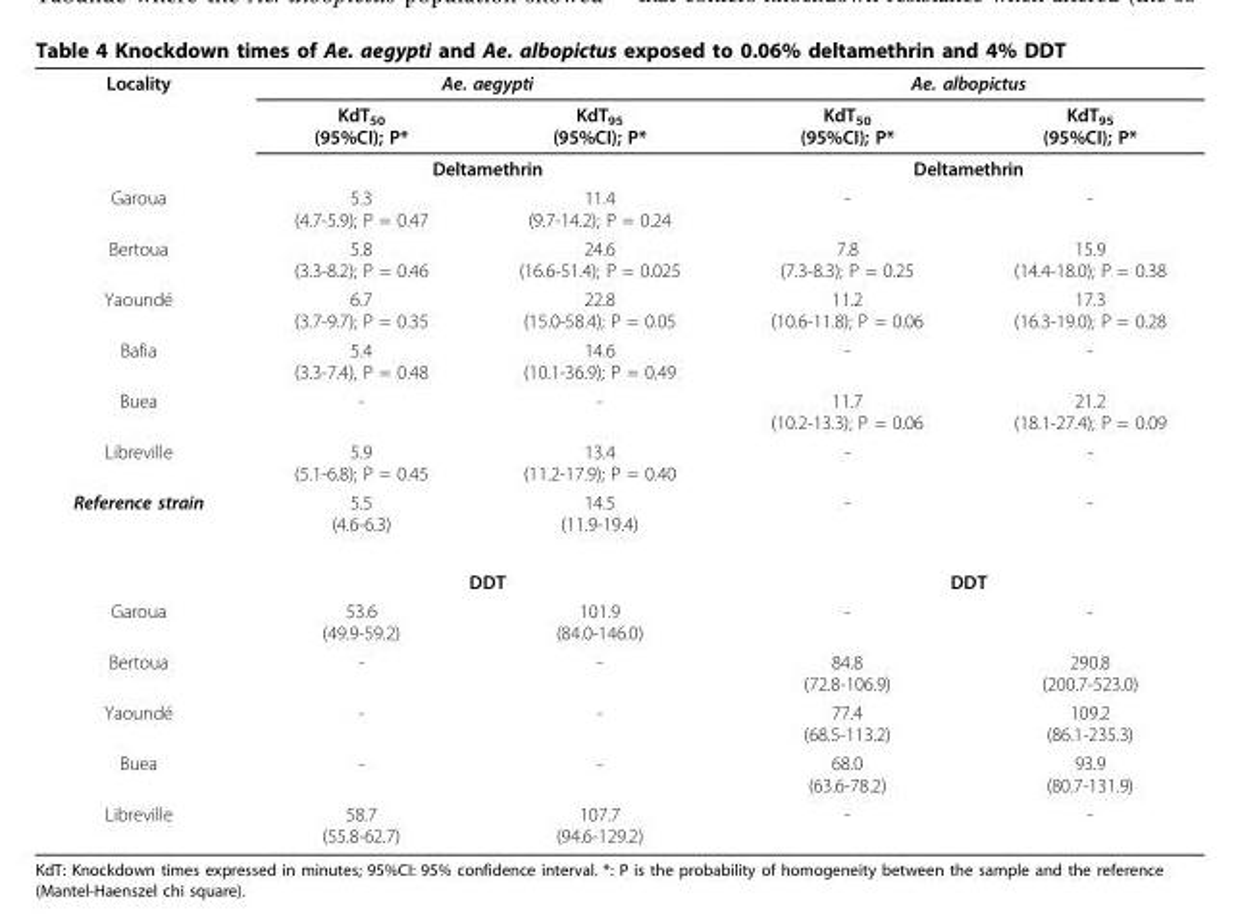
<table><tbody><tr><td rowspan="3">Locality</td><td colspan="2">Ae. aegypti</td><td colspan="2">Ae. albopictus</td></tr><tr><td>KdT<sub>50</sub> (95%CI); P*</td><td>KdT<sub>95</sub> (95%CI); P*</td><td>KdT<sub>50</sub> (95%CI); P*</td><td>KdT<sub>95</sub> (95%CI); P*</td></tr><tr><td colspan="2">Deltamethrin</td><td colspan="2">Deltamethrin</td></tr><tr><td>Garoua</td><td>5.3 (4.7-5.9); P = 0.47</td><td>11.4 (9.7-14.2); P = 0.24</td><td>-</td><td>-</td></tr><tr><td>Bertoua</td><td>5.8 (3.3-8.2); P = 0.46</td><td>24.6 (16.6-51.4); P = 0.025</td><td>7.8 (7.3-8.3); P = 0.25</td><td>15.9 (14.4-18.0); P = 0.38</td></tr><tr><td>Yaoundé</td><td>6.7 (3.7-9.7); P = 0.35</td><td>22.8 (15.0-58.4); P = 0.05</td><td>11.2 (10.6-11.8); P = 0.06</td><td>17.3 (16.3-19.0); P = 0.28</td></tr><tr><td>Bafia</td><td>5.4 (3.3-7.4), P = 0.48</td><td>14.6 (10.1-36.9); P = 0.49</td><td>-</td><td>-</td></tr><tr><td>Buea</td><td>-</td><td>-</td><td>11.7 (10.2-13.3); P = 0.06</td><td>21.2 (18.1-27.4); P = 0.09</td></tr><tr><td>Libreville</td><td>5.9 (5.1-6.8); P = 0.45</td><td>13.4 (11.2-17.9); P = 0.40</td><td>-</td><td>-</td></tr><tr><td rowspan="2">Reference strain</td><td>5.5 (4.6-6.3)</td><td>14.5 (11.9-19.4)</td><td>-</td><td>-</td></tr><tr><td colspan="2">DDT</td><td colspan="2">DDT</td></tr><tr><td>Garoua</td><td>53.6 (49.9-59.2)</td><td>101.9 (84.0-146.0)</td><td>-</td><td>-</td></tr><tr><td>Bertoua</td><td>-</td><td>-</td><td>84.8 (72.8-106.9)</td><td>290.8 (200.7-523.0)</td></tr><tr><td>Yaoundé</td><td>-</td><td>-</td><td>77.4 (68.5-113.2)</td><td>109.2 (86.1-235.3)</td></tr><tr><td>Buea</td><td>-</td><td>-</td><td>68.0 (63.6-78.2)</td><td>93.9 (80.7-131.9)</td></tr><tr><td>Libreville</td><td>58.7 (55.8-62.7)</td><td>107.7 (94.6-129.2)</td><td>-</td><td>-</td></tr></tbody></table>